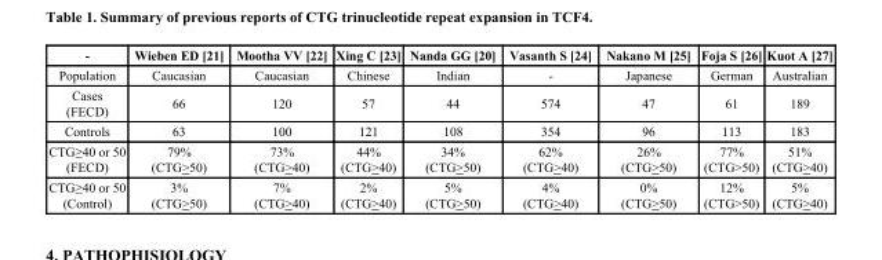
<table><thead><tr><td>-</td><td>Wieben ED [21]</td><td>Mootha VV [22]</td><td>Xing C [23]</td><td>Nanda GG [20]</td><td>Vasanth S [24]</td><td>Nakano M [25]</td><td>Foja S [26]</td><td>Kuot A [27]</td></tr></thead><tbody><tr><td>Population</td><td>Caucasian</td><td>Caucasian</td><td>Chinese</td><td>Indian</td><td>-</td><td>Japanese</td><td>German</td><td>Australian</td></tr><tr><td>Cases (FECD)</td><td>66</td><td>120</td><td>57</td><td>44</td><td>574</td><td>47</td><td>61</td><td>189</td></tr><tr><td>Controls</td><td>63</td><td>100</td><td>121</td><td>108</td><td>354</td><td>96</td><td>113</td><td>183</td></tr><tr><td>CTG≥40 or 50 (FECD)</td><td>79% (CTG&gt;50)</td><td>73% (CTG&gt;40)</td><td>44% (CTG&gt;40)</td><td>34% (CTG&gt;50)</td><td>62% (CTG&gt;40)</td><td>26% (CTG&gt;50)</td><td>77% (CTG&gt;50)</td><td>51% (CTG&gt;40)</td></tr><tr><td>CTG≥40 or 50 (Control)</td><td>3% (CTG&gt;50)</td><td>7% (CTG&gt;40)</td><td>2% (CTG&gt;40)</td><td>5% (CTG&gt;50)</td><td>4% (CTG&gt;40)</td><td>0% (CTG&gt;50)</td><td>12% (CTG&gt;50)</td><td>5% (CTG&gt;40)</td></tr></tbody></table>